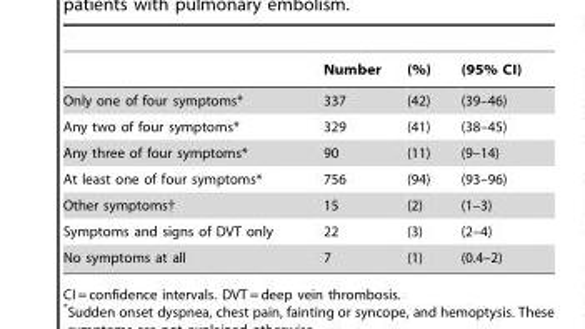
<table><thead><tr><td></td><td>Number</td><td>(%)</td><td>(95% CI)</td></tr></thead><tbody><tr><td>Only one of four symptoms*</td><td>337</td><td>(42)</td><td>(39–46)</td></tr><tr><td>Any two of four symptoms*</td><td>329</td><td>(41)</td><td>(38–45)</td></tr><tr><td>Any three of four symptoms*</td><td>90</td><td>(11)</td><td>(9–14)</td></tr><tr><td>At least one of four symptoms*</td><td>756</td><td>(94)</td><td>(93–96)</td></tr><tr><td>Other symptoms†</td><td>15</td><td>(2)</td><td>(1–3)</td></tr><tr><td>Symptoms and signs of DVT only</td><td>22</td><td>(3)</td><td>(2–4)</td></tr><tr><td>No symptoms at all</td><td>7</td><td>(1)</td><td>(0.4–2)</td></tr></tbody></table>